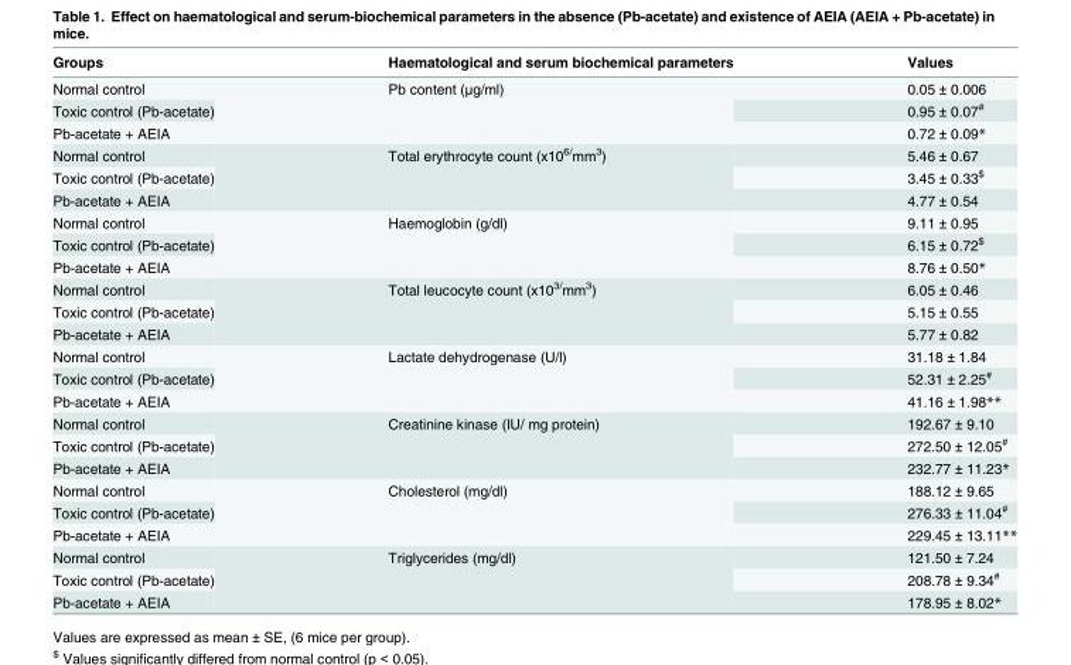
<table><thead><tr><td>Groups</td><td>Haematological and serum biochemical parameters</td><td>Values</td></tr></thead><tbody><tr><td>Normal control</td><td rowspan="3">Pb content (μg/ml)</td><td>0.05 ± 0.006</td></tr><tr><td>Toxic control (Pb-acetate)</td><td>0.95 ± 0.07<sup>#</sup></td></tr><tr><td>Pb-acetate + AEIA</td><td>0.72 ± 0.09*</td></tr><tr><td>Normal control</td><td rowspan="3">Total erythrocyte count (x10<sup>6/</sup>mm<sup>3</sup>)</td><td>5.46 ± 0.67</td></tr><tr><td>Toxic control (Pb-acetate)</td><td>3.45 ± 0.33<sup>$</sup></td></tr><tr><td>Pb-acetate + AEIA</td><td>4.77 ± 0.54</td></tr><tr><td>Normal control</td><td rowspan="3">Haemoglobin (g/dl)</td><td>9.11 ± 0.95</td></tr><tr><td>Toxic control (Pb-acetate)</td><td>6.15 ± 0.72<sup>$</sup></td></tr><tr><td>Pb-acetate + AEIA</td><td>8.76 ± 0.50*</td></tr><tr><td>Normal control</td><td rowspan="3">Total leucocyte count (x10<sup>3/</sup>mm<sup>3</sup>)</td><td>6.05 ± 0.46</td></tr><tr><td>Toxic control (Pb-acetate)</td><td>5.15 ± 0.55</td></tr><tr><td>Pb-acetate + AEIA</td><td>5.77 ± 0.82</td></tr><tr><td>Normal control</td><td rowspan="3">Lactate dehydrogenase (U/l)</td><td>31.18 ± 1.84</td></tr><tr><td>Toxic control (Pb-acetate)</td><td>52.31 ± 2.25<sup>#</sup></td></tr><tr><td>Pb-acetate + AEIA</td><td>41.16 ± 1.98**</td></tr><tr><td>Normal control</td><td rowspan="3">Creatinine kinase (IU/ mg protein)</td><td>192.67 ± 9.10</td></tr><tr><td>Toxic control (Pb-acetate)</td><td>272.50 ± 12.05<sup>#</sup></td></tr><tr><td>Pb-acetate + AEIA</td><td>232.77 ± 11.23*</td></tr><tr><td>Normal control</td><td rowspan="3">Cholesterol (mg/dl)</td><td>188.12 ± 9.65</td></tr><tr><td>Toxic control (Pb-acetate)</td><td>276.33 ± 11.04<sup>#</sup></td></tr><tr><td>Pb-acetate + AEIA</td><td>229.45 ± 13.11**</td></tr><tr><td>Normal control</td><td rowspan="3">Triglycerides (mg/dl)</td><td>121.50 ± 7.24</td></tr><tr><td>Toxic control (Pb-acetate)</td><td>208.78 ± 9.34<sup>#</sup></td></tr><tr><td>Pb-acetate + AEIA</td><td>178.95 ± 8.02*</td></tr></tbody></table>